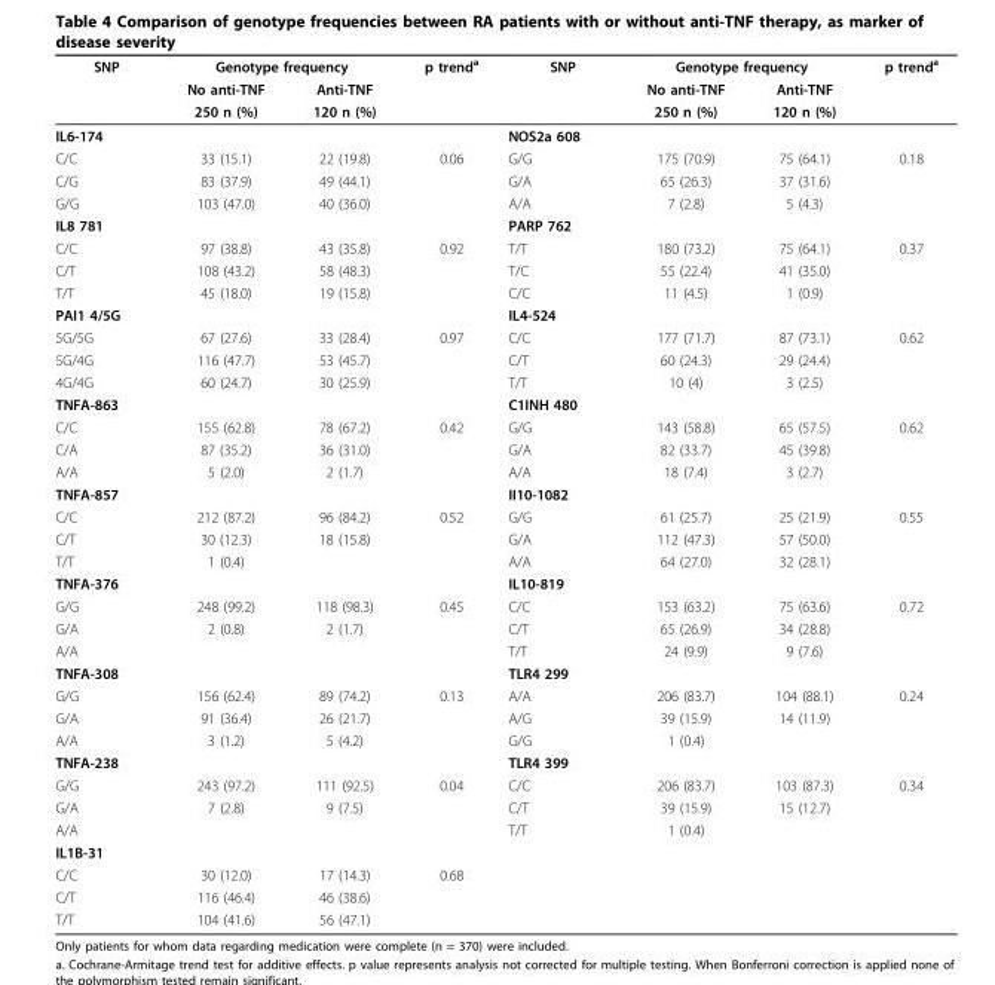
<table><thead><tr><td rowspan="3">SNP</td><td colspan="2">Genotype frequency</td><td rowspan="3">p trend<sup>a</sup></td><td rowspan="3">SNP</td><td colspan="2">Genotype frequency</td><td rowspan="3">p trend<sup>a</sup></td></tr><tr><td rowspan="2">No anti-TNF 250 n (%)</td><td rowspan="2">Anti-TNF 120 n (%)</td><td rowspan="2">No anti-TNF 250 n (%)</td><td rowspan="2">Anti-TNF 120 n (%)</td></tr><tr></tr></thead><tbody><tr><td>IL6-174</td><td></td><td></td><td></td><td>NOS2a 608</td><td></td><td></td><td></td></tr><tr><td>C/C</td><td>33 (15.1)</td><td>22 (19.8)</td><td>0.06</td><td>G/G</td><td>175 (70.9)</td><td>75 (64.1)</td><td>0.18</td></tr><tr><td>C/G</td><td>83 (37.9)</td><td>49 (44.1)</td><td></td><td>G/A</td><td>65 (26.3)</td><td>37 (31.6)</td><td></td></tr><tr><td>G/G</td><td>103 (47.0)</td><td>40 (36.0)</td><td></td><td>A/A</td><td>7 (2.8)</td><td>5 (4.3)</td><td></td></tr><tr><td>IL8 781</td><td></td><td></td><td></td><td>PARP 762</td><td></td><td></td><td></td></tr><tr><td>C/C</td><td>97 (38.8)</td><td>43 (35.8)</td><td>0.92</td><td>T/T</td><td>180 (73.2)</td><td>75 (64.1)</td><td>0.37</td></tr><tr><td>C/T</td><td>108 (43.2)</td><td>58 (48.3)</td><td></td><td>T/C</td><td>55 (22.4)</td><td>41 (35.0)</td><td></td></tr><tr><td>T/T</td><td>45 (18.0)</td><td>19 (15.8)</td><td></td><td>C/C</td><td>11 (4.5)</td><td>1 (0.9)</td><td></td></tr><tr><td>PAI1 4/5G</td><td></td><td></td><td></td><td>IL4-524</td><td></td><td></td><td></td></tr><tr><td>5G/5G</td><td>67 (27.6)</td><td>33 (28.4)</td><td>0.97</td><td>C/C</td><td>177 (71.7)</td><td>87 (73.1)</td><td>0.62</td></tr><tr><td>5G/4G</td><td>116 (47.7)</td><td>53 (45.7)</td><td></td><td>C/T</td><td>60 (24.3)</td><td>29 (24.4)</td><td></td></tr><tr><td>4G/4G</td><td>60 (24.7)</td><td>30 (25.9)</td><td></td><td>T/T</td><td>10 (4)</td><td>3 (2.5)</td><td></td></tr><tr><td>TNFA-863</td><td></td><td></td><td></td><td>C1INH 480</td><td></td><td></td><td></td></tr><tr><td>C/C</td><td>155 (62.8)</td><td>78 (67.2)</td><td>0.42</td><td>G/G</td><td>143 (58.8)</td><td>65 (57.5)</td><td>0.62</td></tr><tr><td>C/A</td><td>87 (35.2)</td><td>36 (31.0)</td><td></td><td>G/A</td><td>82 (33.7)</td><td>45 (39.8)</td><td></td></tr><tr><td>A/A</td><td>5 (2.0)</td><td>2 (1.7)</td><td></td><td>A/A</td><td>18 (7.4)</td><td>3 (2.7)</td><td></td></tr><tr><td>TNFA-857</td><td></td><td></td><td></td><td>II10-1082</td><td></td><td></td><td></td></tr><tr><td>C/C</td><td>212 (87.2)</td><td>96 (84.2)</td><td>0.52</td><td>G/G</td><td>61 (25.7)</td><td>25 (21.9)</td><td>0.55</td></tr><tr><td>C/T</td><td>30 (12.3)</td><td>18 (15.8)</td><td></td><td>G/A</td><td>112 (47.3)</td><td>57 (50.0)</td><td></td></tr><tr><td>T/T</td><td>1 (0.4)</td><td></td><td></td><td>A/A</td><td>64 (27.0)</td><td>32 (28.1)</td><td></td></tr><tr><td>TNFA-376</td><td></td><td></td><td></td><td>IL10-819</td><td></td><td></td><td></td></tr><tr><td>G/G</td><td>248 (99.2)</td><td>118 (98.3)</td><td>0.45</td><td>C/C</td><td>153 (63.2)</td><td>75 (63.6)</td><td>0.72</td></tr><tr><td>G/A</td><td>2 (0.8)</td><td>2 (1.7)</td><td></td><td>C/T</td><td>65 (26.9)</td><td>34 (28.8)</td><td></td></tr><tr><td>A/A</td><td></td><td></td><td></td><td>T/T</td><td>24 (9.9)</td><td>9 (7.6)</td><td></td></tr><tr><td>TNFA-308</td><td></td><td></td><td></td><td>TLR4 299</td><td></td><td></td><td></td></tr><tr><td>G/G</td><td>156 (62.4)</td><td>89 (74.2)</td><td>0.13</td><td>A/A</td><td>206 (83.7)</td><td>104 (88.1)</td><td>0.24</td></tr><tr><td>G/A</td><td>91 (36.4)</td><td>26 (21.7)</td><td></td><td>A/G</td><td>39 (15.9)</td><td>14 (11.9)</td><td></td></tr><tr><td>A/A</td><td>3 (1.2)</td><td>5 (4.2)</td><td></td><td>G/G</td><td>1 (0.4)</td><td></td><td></td></tr><tr><td>TNFA-238</td><td></td><td></td><td></td><td>TLR4 399</td><td></td><td></td><td></td></tr><tr><td>G/G</td><td>243 (97.2)</td><td>111 (92.5)</td><td>0.04</td><td>C/C</td><td>206 (83.7)</td><td>103 (87.3)</td><td>0.34</td></tr><tr><td>G/A</td><td>7 (2.8)</td><td>9 (7.5)</td><td></td><td>C/T</td><td>39 (15.9)</td><td>15 (12.7)</td><td></td></tr><tr><td>A/A</td><td></td><td></td><td></td><td>T/T</td><td>1 (0.4)</td><td></td><td></td></tr><tr><td colspan="8">IL1B-31</td></tr><tr><td>C/C</td><td>30 (12.0)</td><td>17 (14.3)</td><td>0.68</td><td></td><td></td><td></td><td></td></tr><tr><td>C/T</td><td>116 (46.4)</td><td>46 (38.6)</td><td></td><td></td><td></td><td></td><td></td></tr><tr><td>T/T</td><td>104 (41.6)</td><td>56 (47.1)</td><td></td><td></td><td></td><td></td><td></td></tr></tbody></table>